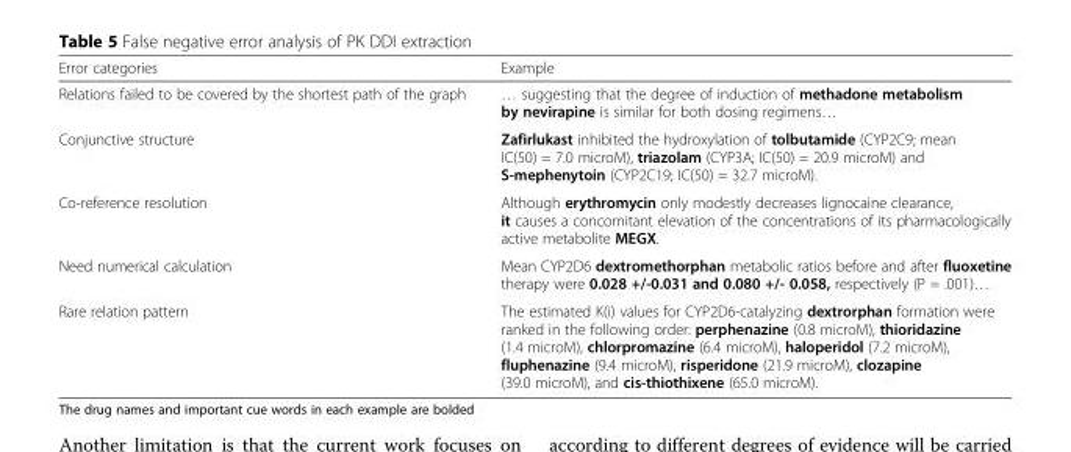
<table><thead><tr><td>Error categories</td><td>Example</td></tr></thead><tbody><tr><td>Relations failed to be covered by the shortest path of the graph</td><td>… suggesting that the degree of induction of methadone metabolism by nevirapine is similar for both dosing regimens…</td></tr><tr><td>Conjunctive structure</td><td>Zafirlukast inhibited the hydroxylation of tolbutamide (CYP2C9; mean IC(50) = 7.0 microM), triazolam (CYP3A; IC(50) = 20.9 microM) and S-mephenytoin (CYP2C19; IC(50) = 32.7 microM).</td></tr><tr><td>Co-reference resolution</td><td>Although erythromycin only modestly decreases lignocaine clearance, it causes a concomitant elevation of the concentrations of its pharmacologically active metabolite MEGX.</td></tr><tr><td>Need numerical calculation</td><td>Mean CYP2D6 dextromethorphan metabolic ratios before and after fluoxetine therapy were 0.028 +/-0.031 and 0.080 +/- 0.058, respectively (P = .001)…</td></tr><tr><td>Rare relation pattern</td><td>The estimated K(i) values for CYP2D6-catalyzing dextrorphan formation were ranked in the following order: perphenazine (0.8 microM), thioridazine (1.4 microM), chlorpromazine (6.4 microM), haloperidol (7.2 microM), fluphenazine (9.4 microM), risperidone (21.9 microM), clozapine (39.0 microM), and cis-thiothixene (65.0 microM).</td></tr></tbody></table>